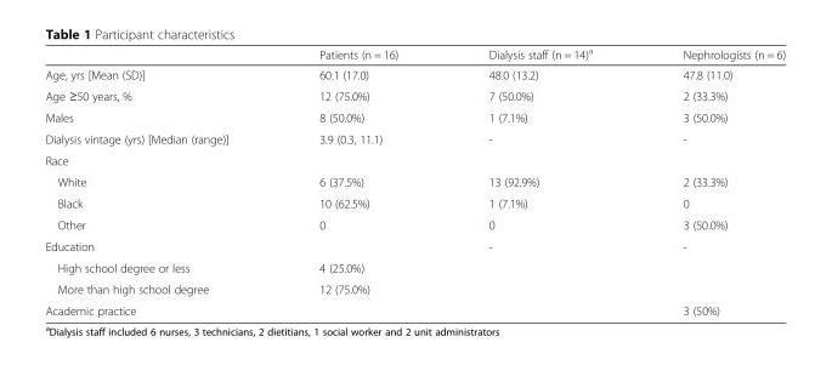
<table><thead><tr><td></td><td>Patients (n = 16)</td><td>Dialysis staff (n = 14)<sup>a</sup></td><td>Nephrologists (n = 6)</td></tr></thead><tbody><tr><td>Age, yrs [Mean (SD)]</td><td>60.1 (17.0)</td><td>48.0 (13.2)</td><td>47.8 (11.0)</td></tr><tr><td>Age ≥50 years, %</td><td>12 (75.0%)</td><td>7 (50.0%)</td><td>2 (33.3%)</td></tr><tr><td>Males</td><td>8 (50.0%)</td><td>1 (7.1%)</td><td>3 (50.0%)</td></tr><tr><td>Dialysis vintage (yrs) [Median (range)]</td><td>3.9 (0.3, 11.1)</td><td>-</td><td>-</td></tr><tr><td colspan="4">Race</td></tr><tr><td>White</td><td>6 (37.5%)</td><td>13 (92.9%)</td><td>2 (33.3%)</td></tr><tr><td>Black</td><td>10 (62.5%)</td><td>1 (7.1%)</td><td>0</td></tr><tr><td>Other</td><td>0</td><td>0</td><td>3 (50.0%)</td></tr><tr><td>Education</td><td></td><td>-</td><td>-</td></tr><tr><td>High school degree or less</td><td>4 (25.0%)</td><td></td><td></td></tr><tr><td>More than high school degree</td><td>12 (75.0%)</td><td></td><td></td></tr><tr><td>Academic practice</td><td></td><td></td><td>3 (50%)</td></tr></tbody></table>